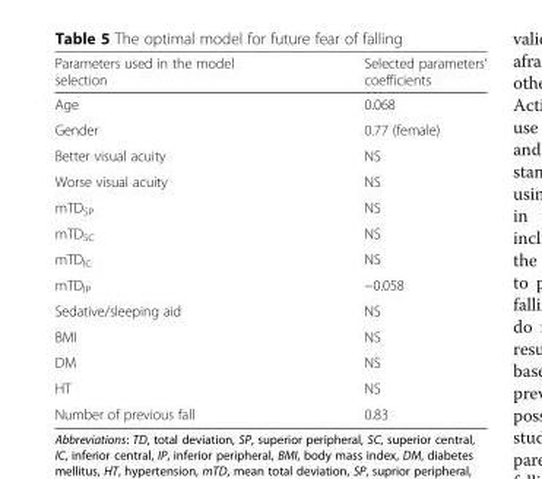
<table><thead><tr><td>Parameters used in the model selection</td><td>Selected parameters’ coefficients</td></tr></thead><tbody><tr><td>Age</td><td>0.068</td></tr><tr><td>Gender</td><td>0.77 (female)</td></tr><tr><td>Better visual acuity</td><td>NS</td></tr><tr><td>Worse visual acuity</td><td>NS</td></tr><tr><td>mTD<sub>SP</sub></td><td>NS</td></tr><tr><td>mTD<sub>SC</sub></td><td>NS</td></tr><tr><td>mTD<sub>IC</sub></td><td>NS</td></tr><tr><td>mTD<sub>IP</sub></td><td>−0.058</td></tr><tr><td>Sedative/sleeping aid</td><td>NS</td></tr><tr><td>BMI</td><td>NS</td></tr><tr><td>DM</td><td>NS</td></tr><tr><td>HT</td><td>NS</td></tr><tr><td>Number of previous fall</td><td>0.83</td></tr></tbody></table>